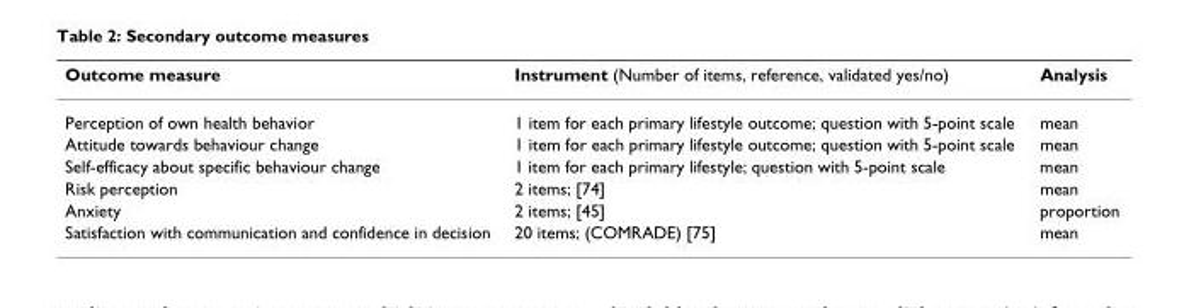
<table><thead><tr><td>Outcome measure</td><td>Instrument (Number of items, reference, validated yes/no)</td><td>Analysis</td></tr></thead><tbody><tr><td>Perception of own health behavior</td><td>1 item for each primary lifestyle outcome; question with 5-point scale</td><td>mean</td></tr><tr><td>Attitude towards behaviour change</td><td>1 item for each primary lifestyle outcome; question with 5-point scale</td><td>mean</td></tr><tr><td>Self-efficacy about specific behaviour change</td><td>1 item for each primary lifestyle; question with 5-point scale</td><td>mean</td></tr><tr><td>Risk perception</td><td>2 items; [74]</td><td>mean</td></tr><tr><td>Anxiety</td><td>2 items; [45]</td><td>proportion</td></tr><tr><td>Satisfaction with communication and confidence in decision</td><td>20 items; (COMRADE) [75]</td><td>mean</td></tr></tbody></table>